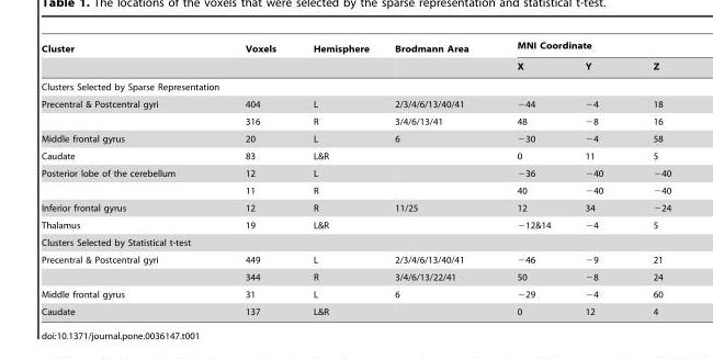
<table><thead><tr><td rowspan="2">Cluster</td><td rowspan="2">Voxels</td><td rowspan="2">Hemisphere</td><td rowspan="2">Brodmann Area</td><td colspan="3">MNI Coordinate</td></tr><tr><td>X</td><td>Y</td><td>Z</td></tr></thead><tbody><tr><td colspan="7">Clusters Selected by Sparse Representation</td></tr><tr><td rowspan="2">Precentral &amp; Postcentral gyri</td><td>404</td><td>L</td><td>2/3/4/6/13/40/41</td><td>−44</td><td>−4</td><td>18</td></tr><tr><td>316</td><td>R</td><td>3/4/6/13/41</td><td>48</td><td>−8</td><td>16</td></tr><tr><td>Middle frontal gyrus</td><td>20</td><td>L</td><td>6</td><td>−30</td><td>−4</td><td>58</td></tr><tr><td>Caudate</td><td>83</td><td>L&amp;R</td><td></td><td>0</td><td>11</td><td>5</td></tr><tr><td rowspan="2">Posterior lobe of the cerebellum</td><td>12</td><td>L</td><td></td><td>−36</td><td>−40</td><td>−40</td></tr><tr><td>11</td><td>R</td><td></td><td>40</td><td>−40</td><td>−40</td></tr><tr><td>Inferior frontal gyrus</td><td>12</td><td>R</td><td>11/25</td><td>12</td><td>34</td><td>−24</td></tr><tr><td>Thalamus</td><td>19</td><td>L&amp;R</td><td></td><td>−12&amp;14</td><td>−4</td><td>5</td></tr><tr><td colspan="7">Clusters Selected by Statistical t-test</td></tr><tr><td rowspan="2">Precentral &amp; Postcentral gyri</td><td>449</td><td>L</td><td>2/3/4/6/13/40/41</td><td>−46</td><td>−9</td><td>21</td></tr><tr><td>344</td><td>R</td><td>3/4/6/13/22/41</td><td>50</td><td>−8</td><td>24</td></tr><tr><td>Middle frontal gyrus</td><td>31</td><td>L</td><td>6</td><td>−29</td><td>−4</td><td>60</td></tr><tr><td>Caudate</td><td>137</td><td>L&amp;R</td><td></td><td>0</td><td>12</td><td>4</td></tr></tbody></table>